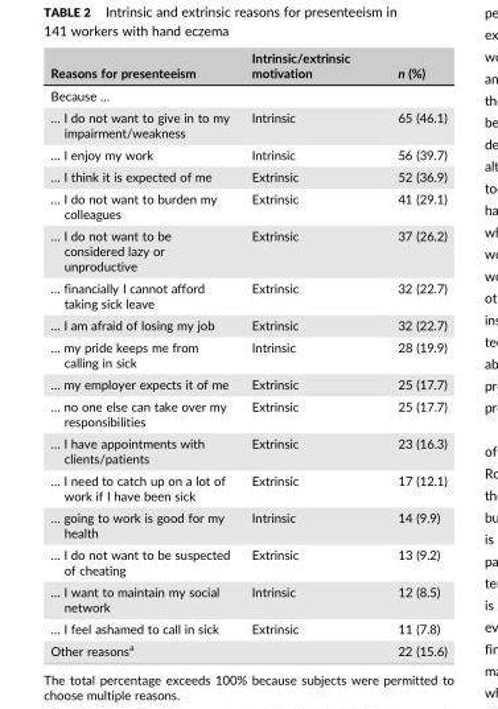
<table><thead><tr><td>Reasons for presenteeism</td><td>Intrinsic/extrinsic motivation</td><td>n (%)</td></tr></thead><tbody><tr><td colspan="3">Because …</td></tr><tr><td>… I do not want to give in to my impairment/weakness</td><td>Intrinsic</td><td>65 (46.1)</td></tr><tr><td>… I enjoy my work</td><td>Intrinsic</td><td>56 (39.7)</td></tr><tr><td>… I think it is expected of me</td><td>Extrinsic</td><td>52 (36.9)</td></tr><tr><td>… I do not want to burden my colleagues</td><td>Extrinsic</td><td>41 (29.1)</td></tr><tr><td>… I do not want to be considered lazy or unproductive</td><td>Extrinsic</td><td>37 (26.2)</td></tr><tr><td>… financially I cannot afford taking sick leave</td><td>Extrinsic</td><td>32 (22.7)</td></tr><tr><td>… I am afraid of losing my job</td><td>Extrinsic</td><td>32 (22.7)</td></tr><tr><td>… my pride keeps me from calling in sick</td><td>Intrinsic</td><td>28 (19.9)</td></tr><tr><td>… my employer expects it of me</td><td>Extrinsic</td><td>25 (17.7)</td></tr><tr><td>… no one else can take over my responsibilities</td><td>Extrinsic</td><td>25 (17.7)</td></tr><tr><td>… I have appointments with clients/patients</td><td>Extrinsic</td><td>23 (16.3)</td></tr><tr><td>… I need to catch up on a lot of work if I have been sick</td><td>Extrinsic</td><td>17 (12.1)</td></tr><tr><td>… going to work is good for my health</td><td>Intrinsic</td><td>14 (9.9)</td></tr><tr><td>… I do not want to be suspected of cheating</td><td>Extrinsic</td><td>13 (9.2)</td></tr><tr><td>… I want to maintain my social network</td><td>Intrinsic</td><td>12 (8.5)</td></tr><tr><td>… I feel ashamed to call in sick</td><td>Extrinsic</td><td>11 (7.8)</td></tr><tr><td>Other reasons<sup>a</sup></td><td></td><td>22 (15.6)</td></tr></tbody></table>